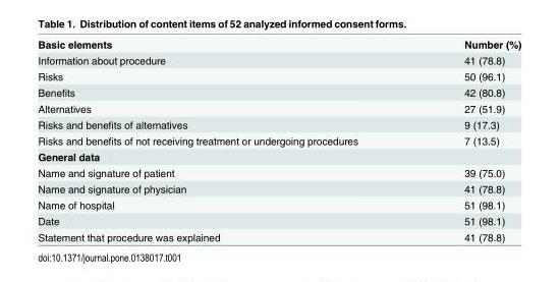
<table><tbody><tr><td>Basic elements</td><td>Number (%)</td></tr><tr><td>Information about procedure</td><td>41 (78.8)</td></tr><tr><td>Risks</td><td>50 (96.1)</td></tr><tr><td>Benefits</td><td>42 (80.8)</td></tr><tr><td>Alternatives</td><td>27 (51.9)</td></tr><tr><td>Risks and benefits of alternatives</td><td>9 (17.3)</td></tr><tr><td>Risks and benefits of not receiving treatment or undergoing procedures</td><td>7 (13.5)</td></tr><tr><td colspan="2">General data</td></tr><tr><td>Name and signature of patient</td><td>39 (75.0)</td></tr><tr><td>Name and signature of physician</td><td>41 (78.8)</td></tr><tr><td>Name of hospital</td><td>51 (98.1)</td></tr><tr><td>Date</td><td>51 (98.1)</td></tr><tr><td>Statement that procedure was explained</td><td>41 (78.8)</td></tr></tbody></table>